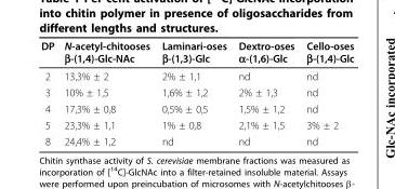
<table><thead><tr><td>DP</td><td>N-acetyl-chitooses β-(1,4)-Glc-NAc</td><td>Laminari-oses β-(1,3)-Glc</td><td>Dextro-oses α-(1,6)-Glc</td><td>Cello-oses β-(1,4)-Glc</td></tr></thead><tbody><tr><td>2</td><td>13,3% ± 2</td><td>2% ± 1,1</td><td>nd</td><td>nd</td></tr><tr><td>3</td><td>10% ± 1,5</td><td>1,6% ± 1,2</td><td>2% ± 1,3</td><td>nd</td></tr><tr><td>4</td><td>17,3% ± 0,8</td><td>0,5% ± 0,5</td><td>1,5% ± 1,2</td><td>nd</td></tr><tr><td>5</td><td>23,3% ± 1,1</td><td>1% ± 0,8</td><td>2,1% ± 1,5</td><td>3% ± 2</td></tr><tr><td>8</td><td>24,4% ± 1,2</td><td>nd</td><td>nd</td><td>nd</td></tr></tbody></table>